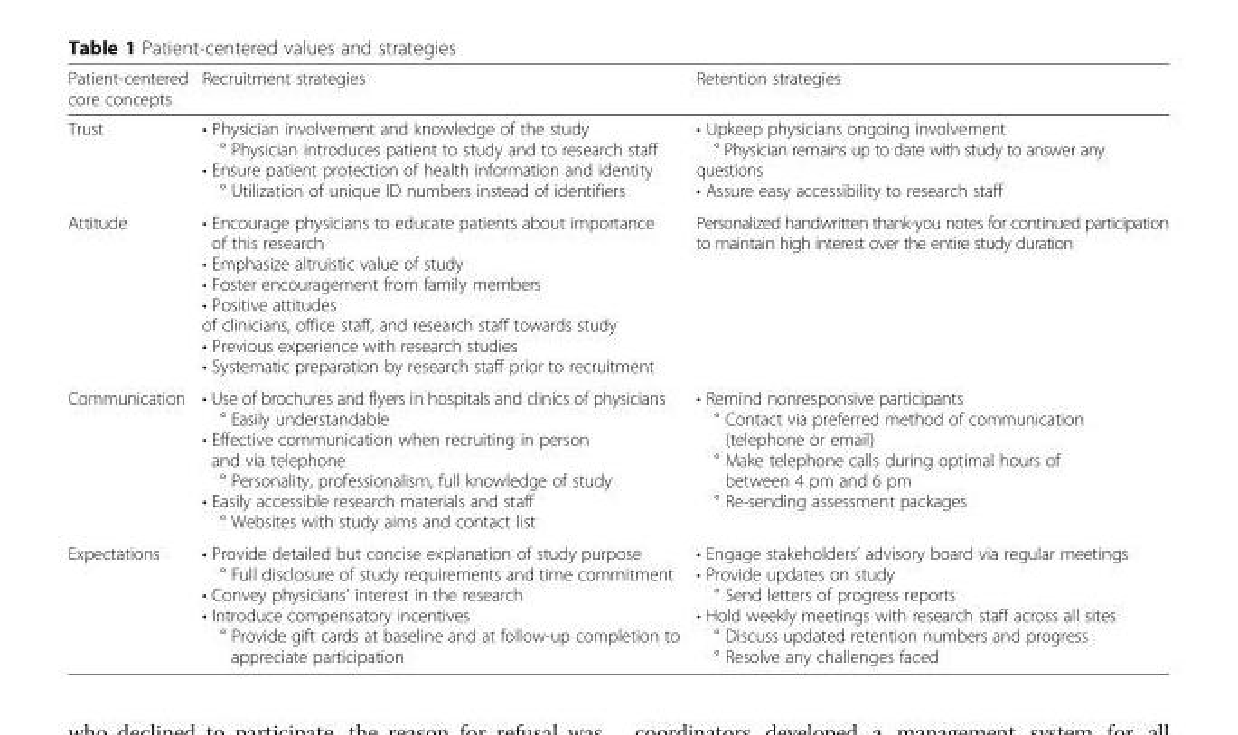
<table><thead><tr><td>Patient-centered core concepts</td><td>Recruitment strategies</td><td>Retention strategies</td></tr></thead><tbody><tr><td>Trust</td><td>• Physician involvement and knowledge of the study ° Physician introduces patient to study and to research staff • Ensure patient protection of health information and identity ° Utilization of unique ID numbers instead of identifiers</td><td>• Upkeep physicians ongoing involvement ° Physician remains up to date with study to answer any questions • Assure easy accessibility to research staff</td></tr><tr><td>Attitude</td><td>• Encourage physicians to educate patients about importance of this research • Emphasize altruistic value of study • Foster encouragement from family members • Positive attitudes of clinicians, office staff, and research staff towards study • Previous experience with research studies • Systematic preparation by research staff prior to recruitment</td><td>Personalized handwritten thank-you notes for continued participation to maintain high interest over the entire study duration</td></tr><tr><td>Communication</td><td>• Use of brochures and flyers in hospitals and clinics of physicians ° Easily understandable • Effective communication when recruiting in person and via telephone ° Personality, professionalism, full knowledge of study • Easily accessible research materials and staff ° Websites with study aims and contact list</td><td>• Remind nonresponsive participants ° Contact via preferred method of communication (telephone or email) ° Make telephone calls during optimal hours of between 4 pm and 6 pm ° Re-sending assessment packages</td></tr><tr><td>Expectations</td><td>• Provide detailed but concise explanation of study purpose ° Full disclosure of study requirements and time commitment • Convey physicians’ interest in the research • Introduce compensatory incentives ° Provide gift cards at baseline and at follow-up completion to appreciate participation</td><td>• Engage stakeholders’ advisory board via regular meetings • Provide updates on study ° Send letters of progress reports • Hold weekly meetings with research staff across all sites ° Discuss updated retention numbers and progress ° Resolve any challenges faced</td></tr></tbody></table>